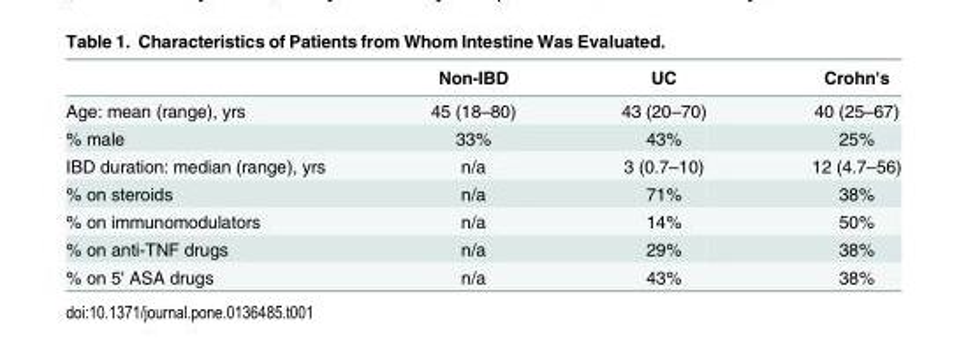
<table><thead><tr><td></td><td>Non-IBD</td><td>UC</td><td>Crohn&#x27;s</td></tr></thead><tbody><tr><td>Age: mean (range), yrs</td><td>45 (18–80)</td><td>43 (20–70)</td><td>40 (25–67)</td></tr><tr><td>% male</td><td>33%</td><td>43%</td><td>25%</td></tr><tr><td>IBD duration: median (range), yrs</td><td>n/a</td><td>3 (0.7–10)</td><td>12 (4.7–56)</td></tr><tr><td>% on steroids</td><td>n/a</td><td>71%</td><td>38%</td></tr><tr><td>% on immunomodulators</td><td>n/a</td><td>14%</td><td>50%</td></tr><tr><td>% on anti-TNF drugs</td><td>n/a</td><td>29%</td><td>38%</td></tr><tr><td>% on 5&#x27; ASA drugs</td><td>n/a</td><td>43%</td><td>38%</td></tr></tbody></table>